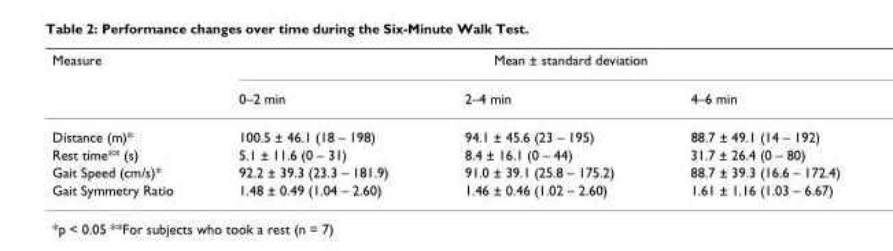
<table><thead><tr><td rowspan="2">Measure</td><td colspan="3">Mean ± standard deviation</td></tr><tr><td>0–2 min</td><td>2–4 min</td><td>4–6 min</td></tr></thead><tbody><tr><td>Distance (m)*</td><td>100.5 ± 46.1 (18 – 198)</td><td>94.1 ± 45.6 (23 – 195)</td><td>88.7 ± 49.1 (14 – 192)</td></tr><tr><td>Rest time** (s)</td><td>5.1 ± 11.6 (0 – 31)</td><td>8.4 ± 16.1 (0 – 44)</td><td>31.7 ± 26.4 (0 – 80)</td></tr><tr><td>Gait Speed (cm/s)*</td><td>92.2 ± 39.3 (23.3 – 181.9)</td><td>91.0 ± 39.1 (25.8 – 175.2)</td><td>88.7 ± 39.3 (16.6 – 172.4)</td></tr><tr><td>Gait Symmetry Ratio</td><td>1.48 ± 0.49 (1.04 – 2.60)</td><td>1.46 ± 0.46 (1.02 – 2.60)</td><td>1.61 ± 1.16 (1.03 – 6.67)</td></tr></tbody></table>